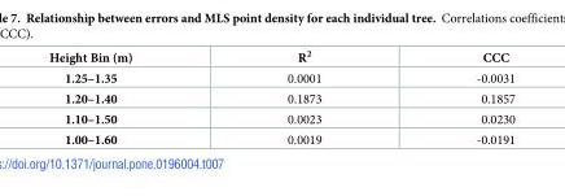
<table><thead><tr><td>Height Bin (m)</td><td>R<sup>2</sup></td><td>CCC</td></tr></thead><tbody><tr><td>1.25–1.35</td><td>0.0001</td><td>-0.0031</td></tr><tr><td>1.20–1.40</td><td>0.1873</td><td>0.1857</td></tr><tr><td>1.10–1.50</td><td>0.0023</td><td>0.0230</td></tr><tr><td>1.00–1.60</td><td>0.0019</td><td>-0.0191</td></tr></tbody></table>